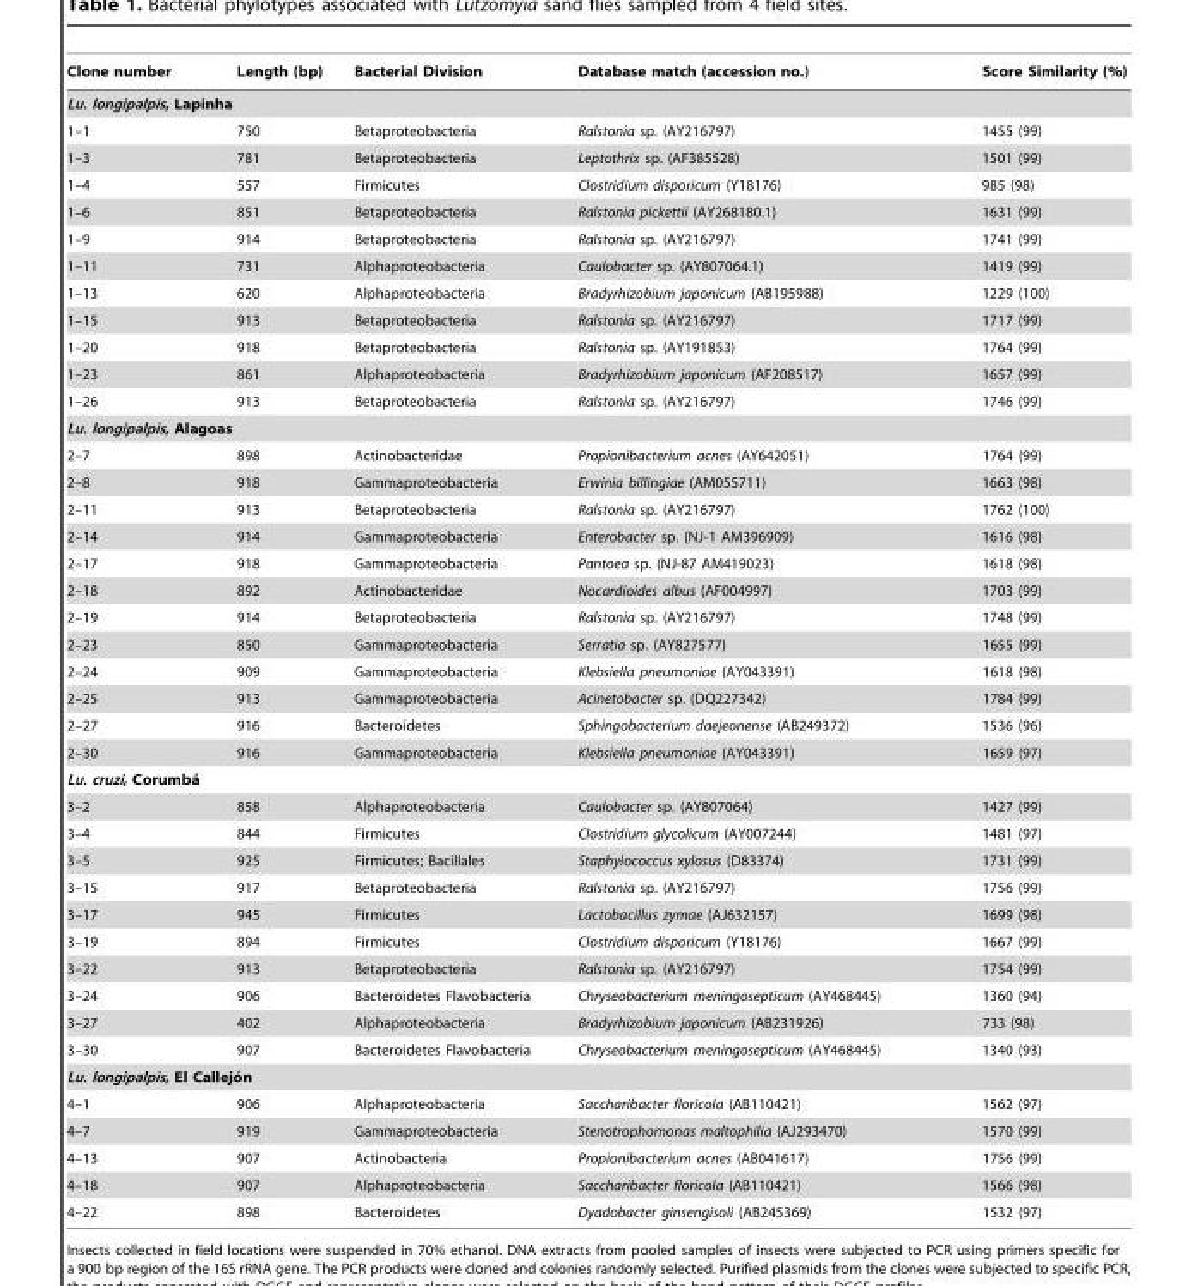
<table><thead><tr><td>Clone number</td><td>Length (bp)</td><td>Bacterial Division</td><td>Database match (accession no.)</td><td>Score Similarity (%)</td></tr></thead><tbody><tr><td colspan="5">Lu. longipalpis, Lapinha</td></tr><tr><td>1–1</td><td>750</td><td>Betaproteobacteria</td><td>Ralstonia sp. (AY216797)</td><td>1455 (99)</td></tr><tr><td>1–3</td><td>781</td><td>Betaproteobacteria</td><td>Leptothrix sp. (AF385528)</td><td>1501 (99)</td></tr><tr><td>1–4</td><td>557</td><td>Firmicutes</td><td>Clostridium disporicum (Y18176)</td><td>985 (98)</td></tr><tr><td>1–6</td><td>851</td><td>Betaproteobacteria</td><td>Ralstonia pickettii (AY268180.1)</td><td>1631 (99)</td></tr><tr><td>1–9</td><td>914</td><td>Betaproteobacteria</td><td>Ralstonia sp. (AY216797)</td><td>1741 (99)</td></tr><tr><td>1–11</td><td>731</td><td>Alphaproteobacteria</td><td>Caulobacter sp. (AY807064.1)</td><td>1419 (99)</td></tr><tr><td>1–13</td><td>620</td><td>Alphaproteobacteria</td><td>Bradyrhizobium japonicum (AB195988)</td><td>1229 (100)</td></tr><tr><td>1–15</td><td>913</td><td>Betaproteobacteria</td><td>Ralstonia sp. (AY216797)</td><td>1717 (99)</td></tr><tr><td>1–20</td><td>918</td><td>Betaproteobacteria</td><td>Ralstonia sp. (AY191853)</td><td>1764 (99)</td></tr><tr><td>1–23</td><td>861</td><td>Alphaproteobacteria</td><td>Bradyrhizobium japonicum (AF208517)</td><td>1657 (99)</td></tr><tr><td>1–26</td><td>913</td><td>Betaproteobacteria</td><td>Ralstonia sp. (AY216797)</td><td>1746 (99)</td></tr><tr><td colspan="5">Lu. longipalpis, Alagoas</td></tr><tr><td>2–7</td><td>898</td><td>Actinobacteridae</td><td>Propionibacterium acnes (AY642051)</td><td>1764 (99)</td></tr><tr><td>2–8</td><td>918</td><td>Gammaproteobacteria</td><td>Erwinia billingiae (AM055711)</td><td>1663 (98)</td></tr><tr><td>2–11</td><td>913</td><td>Betaproteobacteria</td><td>Ralstonia sp. (AY216797)</td><td>1762 (100)</td></tr><tr><td>2–14</td><td>914</td><td>Gammaproteobacteria</td><td>Enterobacter sp. (NJ-1 AM396909)</td><td>1616 (98)</td></tr><tr><td>2–17</td><td>918</td><td>Gammaproteobacteria</td><td>Pantoea sp. (NJ-87 AM419023)</td><td>1618 (98)</td></tr><tr><td>2–18</td><td>892</td><td>Actinobacteridae</td><td>Nocardioides albus (AF004997)</td><td>1703 (99)</td></tr><tr><td>2–19</td><td>914</td><td>Betaproteobacteria</td><td>Ralstonia sp. (AY216797)</td><td>1748 (99)</td></tr><tr><td>2–23</td><td>850</td><td>Gammaproteobacteria</td><td>Serratia sp. (AY827577)</td><td>1655 (99)</td></tr><tr><td>2–24</td><td>909</td><td>Gammaproteobacteria</td><td>Klebsiella pneumoniae (AY043391)</td><td>1618 (98)</td></tr><tr><td>2–25</td><td>913</td><td>Gammaproteobacteria</td><td>Acinetobacter sp. (DQ227342)</td><td>1784 (99)</td></tr><tr><td>2–27</td><td>916</td><td>Bacteroidetes</td><td>Sphingobacterium daejeonense (AB249372)</td><td>1536 (96)</td></tr><tr><td>2–30</td><td>916</td><td>Gammaproteobacteria</td><td>Klebsiella pneumoniae (AY043391)</td><td>1659 (97)</td></tr><tr><td colspan="5">Lu. cruzi, Corumba´</td></tr><tr><td>3–2</td><td>858</td><td>Alphaproteobacteria</td><td>Caulobacter sp. (AY807064)</td><td>1427 (99)</td></tr><tr><td>3–4</td><td>844</td><td>Firmicutes</td><td>Clostridium glycolicum (AY007244)</td><td>1481 (97)</td></tr><tr><td>3–5</td><td>925</td><td>Firmicutes; Bacillales</td><td>Staphylococcus xylosus (D83374)</td><td>1731 (99)</td></tr><tr><td>3–15</td><td>917</td><td>Betaproteobacteria</td><td>Ralstonia sp. (AY216797)</td><td>1756 (99)</td></tr><tr><td>3–17</td><td>945</td><td>Firmicutes</td><td>Lactobacillus zymae (AJ632157)</td><td>1699 (98)</td></tr><tr><td>3–19</td><td>894</td><td>Firmicutes</td><td>Clostridium disporicum (Y18176)</td><td>1667 (99)</td></tr><tr><td>3–22</td><td>913</td><td>Betaproteobacteria</td><td>Ralstonia sp. (AY216797)</td><td>1754 (99)</td></tr><tr><td>3–24</td><td>906</td><td>Bacteroidetes Flavobacteria</td><td>Chryseobacterium meningosepticum (AY468445)</td><td>1360 (94)</td></tr><tr><td>3–27</td><td>402</td><td>Alphaproteobacteria</td><td>Bradyrhizobium japonicum (AB231926)</td><td>733 (98)</td></tr><tr><td>3–30</td><td>907</td><td>Bacteroidetes Flavobacteria</td><td>Chryseobacterium meningosepticum (AY468445)</td><td>1340 (93)</td></tr><tr><td colspan="5">Lu. longipalpis, El Callejo´ n</td></tr><tr><td>4–1</td><td>906</td><td>Alphaproteobacteria</td><td>Saccharibacter floricola (AB110421)</td><td>1562 (97)</td></tr><tr><td>4–7</td><td>919</td><td>Gammaproteobacteria</td><td>Stenotrophomonas maltophilia (AJ293470)</td><td>1570 (99)</td></tr><tr><td>4–13</td><td>907</td><td>Actinobacteria</td><td>Propionibacterium acnes (AB041617)</td><td>1756 (99)</td></tr><tr><td>4–18</td><td>907</td><td>Alphaproteobacteria</td><td>Saccharibacter floricola (AB110421)</td><td>1566 (98)</td></tr><tr><td>4–22</td><td>898</td><td>Bacteroidetes</td><td>Dyadobacter ginsengisoli (AB245369)</td><td>1532 (97)</td></tr></tbody></table>